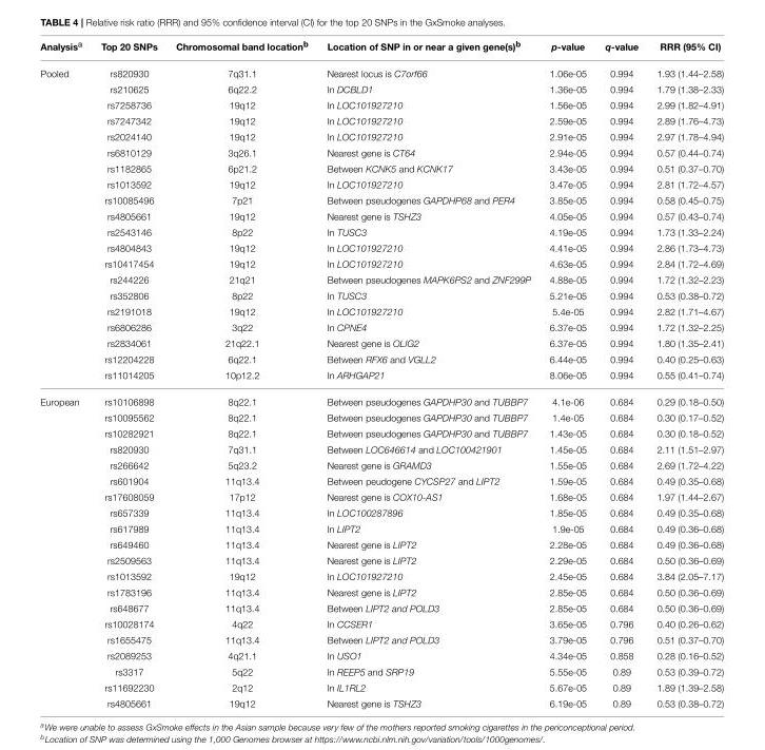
<table><thead><tr><td>Analysis<sup>a</sup></td><td>Top 20 SNPs</td><td>Chromosomal band location<sup>b</sup></td><td>Location of SNP in or near a given gene(s)<sup>b</sup></td><td>p-value</td><td>q-value</td><td>RRR (95% CI)</td></tr></thead><tbody><tr><td rowspan="20">Pooled</td><td>rs820930</td><td>7q31.1</td><td>Nearest locus is C7orf66</td><td>1.06e-05</td><td>0.994</td><td>1.93 (1.44–2.58)</td></tr><tr><td>rs210625</td><td>6q22.2</td><td>In DCBLD1</td><td>1.36e-05</td><td>0.994</td><td>1.79 (1.38–2.33)</td></tr><tr><td>rs7258736</td><td>19q12</td><td>In LOC101927210</td><td>1.56e-05</td><td>0.994</td><td>2.99 (1.82–4.91)</td></tr><tr><td>rs7247342</td><td>19q12</td><td>In LOC101927210</td><td>2.59e-05</td><td>0.994</td><td>2.89 (1.76–4.73)</td></tr><tr><td>rs2024140</td><td>19q12</td><td>In LOC101927210</td><td>2.91e-05</td><td>0.994</td><td>2.97 (1.78–4.94)</td></tr><tr><td>rs6810129</td><td>3q26.1</td><td>Nearest gene is CT64</td><td>2.94e-05</td><td>0.994</td><td>0.57 (0.44–0.74)</td></tr><tr><td>rs1182865</td><td>6p21.2</td><td>Between KCNK5 and KCNK17</td><td>3.43e-05</td><td>0.994</td><td>0.51 (0.37–0.70)</td></tr><tr><td>rs1013592</td><td>19q12</td><td>In LOC101927210</td><td>3.47e-05</td><td>0.994</td><td>2.81 (1.72–4.57)</td></tr><tr><td>rs10085496</td><td>7p21</td><td>Between pseudogenes GAPDHP68 and PER4</td><td>3.85e-05</td><td>0.994</td><td>0.58 (0.45–0.75)</td></tr><tr><td>rs4805661</td><td>19q12</td><td>Nearest gene is TSHZ3</td><td>4.05e-05</td><td>0.994</td><td>0.57 (0.43–0.74)</td></tr><tr><td>rs2543146</td><td>8p22</td><td>In TUSC3</td><td>4.19e-05</td><td>0.994</td><td>1.73 (1.33–2.24)</td></tr><tr><td>rs4804843</td><td>19q12</td><td>In LOC101927210</td><td>4.41e-05</td><td>0.994</td><td>2.86 (1.73–4.73)</td></tr><tr><td>rs10417454</td><td>19q12</td><td>In LOC101927210</td><td>4.63e-05</td><td>0.994</td><td>2.84 (1.72–4.69)</td></tr><tr><td>rs244226</td><td>21q21</td><td>Between pseudogenes MAPK6PS2 and ZNF299P</td><td>4.88e-05</td><td>0.994</td><td>1.72 (1.32–2.23)</td></tr><tr><td>rs352806</td><td>8p22</td><td>In TUSC3</td><td>5.21e-05</td><td>0.994</td><td>0.53 (0.38–0.72)</td></tr><tr><td>rs2191018</td><td>19q12</td><td>In LOC101927210</td><td>5.4e-05</td><td>0.994</td><td>2.82 (1.71–4.67)</td></tr><tr><td>rs6806286</td><td>3q22</td><td>In CPNE4</td><td>6.37e-05</td><td>0.994</td><td>1.72 (1.32–2.25)</td></tr><tr><td>rs2834061</td><td>21q22.1</td><td>Nearest gene is OLIG2</td><td>6.37e-05</td><td>0.994</td><td>1.80 (1.35–2.41)</td></tr><tr><td>rs12204228</td><td>6q22.1</td><td>Between RFX6 and VGLL2</td><td>6.44e-05</td><td>0.994</td><td>0.40 (0.25–0.63)</td></tr><tr><td>rs11014205</td><td>10p12.2</td><td>In ARHGAP21</td><td>8.06e-05</td><td>0.994</td><td>0.55 (0.41–0.74)</td></tr><tr><td rowspan="20">European</td><td>rs10106898</td><td>8q22.1</td><td>Between pseudogenes GAPDHP30 and TUBBP7</td><td>4.1e-06</td><td>0.684</td><td>0.29 (0.18–0.50)</td></tr><tr><td>rs10095562</td><td>8q22.1</td><td>Between pseudogenes GAPDHP30 and TUBBP7</td><td>1.4e-05</td><td>0.684</td><td>0.30 (0.17–0.52)</td></tr><tr><td>rs10282921</td><td>8q22.1</td><td>Between pseudogenes GAPDHP30 and TUBBP7</td><td>1.43e-05</td><td>0.684</td><td>0.30 (0.18–0.52)</td></tr><tr><td>rs820930</td><td>7q31.1</td><td>Between LOC646614 and LOC100421901</td><td>1.45e-05</td><td>0.684</td><td>2.11 (1.51–2.97)</td></tr><tr><td>rs266642</td><td>5q23.2</td><td>Nearest gene is GRAMD3</td><td>1.55e-05</td><td>0.684</td><td>2.69 (1.72–4.22)</td></tr><tr><td>rs601904</td><td>11q13.4</td><td>Between peudogene CYCSP27 and LIPT2</td><td>1.59e-05</td><td>0.684</td><td>0.49 (0.35–0.68)</td></tr><tr><td>rs17608059</td><td>17p12</td><td>Nearest gene is COX10-AS1</td><td>1.68e-05</td><td>0.684</td><td>1.97 (1.44–2.67)</td></tr><tr><td>rs657339</td><td>11q13.4</td><td>In LOC100287896</td><td>1.85e-05</td><td>0.684</td><td>0.49 (0.35–0.68)</td></tr><tr><td>rs617989</td><td>11q13.4</td><td>In LIPT2</td><td>1.9e-05</td><td>0.684</td><td>0.49 (0.36–0.68)</td></tr><tr><td>rs649460</td><td>11q13.4</td><td>Nearest gene is LIPT2</td><td>2.28e-05</td><td>0.684</td><td>0.49 (0.36–0.68)</td></tr><tr><td>rs2509563</td><td>11q13.4</td><td>Nearest gene is LIPT2</td><td>2.29e-05</td><td>0.684</td><td>0.50 (0.36–0.69)</td></tr><tr><td>rs1013592</td><td>19q12</td><td>In LOC101927210</td><td>2.45e-05</td><td>0.684</td><td>3.84 (2.05–7.17)</td></tr><tr><td>rs1783196</td><td>11q13.4</td><td>Nearest gene is LIPT2</td><td>2.85e-05</td><td>0.684</td><td>0.50 (0.36–0.69)</td></tr><tr><td>rs648677</td><td>11q13.4</td><td>Between LIPT2 and POLD3</td><td>2.85e-05</td><td>0.684</td><td>0.50 (0.36–0.69)</td></tr><tr><td>rs10028174</td><td>4q22</td><td>In CCSER1</td><td>3.65e-05</td><td>0.796</td><td>0.40 (0.26–0.62)</td></tr><tr><td>rs1655475</td><td>11q13.4</td><td>Between LIPT2 and POLD3</td><td>3.79e-05</td><td>0.796</td><td>0.51 (0.37–0.70)</td></tr><tr><td>rs2089253</td><td>4q21.1</td><td>In USO1</td><td>4.34e-05</td><td>0.858</td><td>0.28 (0.16–0.52)</td></tr><tr><td>rs3317</td><td>5q22</td><td>In REEP5 and SRP19</td><td>5.55e-05</td><td>0.89</td><td>0.53 (0.39–0.72)</td></tr><tr><td>rs11692230</td><td>2q12</td><td>In IL1RL2</td><td>5.67e-05</td><td>0.89</td><td>1.89 (1.39–2.58)</td></tr><tr><td>rs4805661</td><td>19q12</td><td>Nearest gene is TSHZ3</td><td>6.19e-05</td><td>0.89</td><td>0.53 (0.38–0.72)</td></tr></tbody></table>